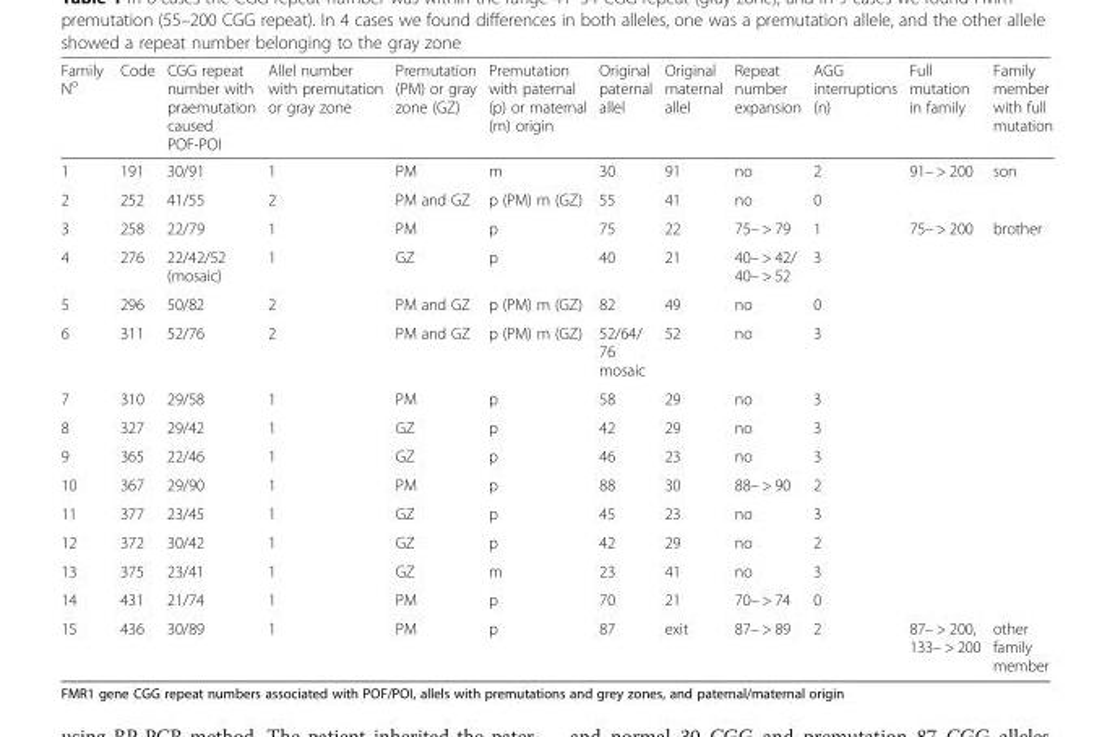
<table><thead><tr><td>Family N<sup>o</sup></td><td>Code</td><td>CGG repeat number with praemutation caused POF-POI</td><td>Allel number with premutation or gray zone</td><td>Premutation (PM) or gray zone (GZ)</td><td>Premutation with paternal (p) or maternal (m) origin</td><td>Original paternal allel</td><td>Original maternal allel</td><td>Repeat number expansion</td><td>AGG interruptions (n)</td><td>Full mutation in family</td><td>Family member with full mutation</td></tr></thead><tbody><tr><td>1</td><td>191</td><td>30/91</td><td>1</td><td>PM</td><td>m</td><td>30</td><td>91</td><td>no</td><td>2</td><td>91– &gt; 200</td><td>son</td></tr><tr><td>2</td><td>252</td><td>41/55</td><td>2</td><td>PM and GZ</td><td>p (PM) m (GZ)</td><td>55</td><td>41</td><td>no</td><td>0</td><td></td><td></td></tr><tr><td>3</td><td>258</td><td>22/79</td><td>1</td><td>PM</td><td>p</td><td>75</td><td>22</td><td>75– &gt; 79</td><td>1</td><td>75– &gt; 200</td><td>brother</td></tr><tr><td>4</td><td>276</td><td>22/42/52 (mosaic)</td><td>1</td><td>GZ</td><td>p</td><td>40</td><td>21</td><td>40– &gt; 42/ 40– &gt; 52</td><td>3</td><td></td><td></td></tr><tr><td>5</td><td>296</td><td>50/82</td><td>2</td><td>PM and GZ</td><td>p (PM) m (GZ)</td><td>82</td><td>49</td><td>no</td><td>0</td><td></td><td></td></tr><tr><td>6</td><td>311</td><td>52/76</td><td>2</td><td>PM and GZ</td><td>p (PM) m (GZ)</td><td>52/64/ 76 mosaic</td><td>52</td><td>no</td><td>3</td><td></td><td></td></tr><tr><td>7</td><td>310</td><td>29/58</td><td>1</td><td>PM</td><td>p</td><td>58</td><td>29</td><td>no</td><td>3</td><td></td><td></td></tr><tr><td>8</td><td>327</td><td>29/42</td><td>1</td><td>GZ</td><td>p</td><td>42</td><td>29</td><td>no</td><td>3</td><td></td><td></td></tr><tr><td>9</td><td>365</td><td>22/46</td><td>1</td><td>GZ</td><td>p</td><td>46</td><td>23</td><td>no</td><td>3</td><td></td><td></td></tr><tr><td>10</td><td>367</td><td>29/90</td><td>1</td><td>PM</td><td>p</td><td>88</td><td>30</td><td>88– &gt; 90</td><td>2</td><td></td><td></td></tr><tr><td>11</td><td>377</td><td>23/45</td><td>1</td><td>GZ</td><td>p</td><td>45</td><td>23</td><td>no</td><td>3</td><td></td><td></td></tr><tr><td>12</td><td>372</td><td>30/42</td><td>1</td><td>GZ</td><td>p</td><td>42</td><td>29</td><td>no</td><td>2</td><td></td><td></td></tr><tr><td>13</td><td>375</td><td>23/41</td><td>1</td><td>GZ</td><td>m</td><td>23</td><td>41</td><td>no</td><td>3</td><td></td><td></td></tr><tr><td>14</td><td>431</td><td>21/74</td><td>1</td><td>PM</td><td>p</td><td>70</td><td>21</td><td>70– &gt; 74</td><td>0</td><td></td><td></td></tr><tr><td>15</td><td>436</td><td>30/89</td><td>1</td><td>PM</td><td>p</td><td>87</td><td>exit</td><td>87– &gt; 89</td><td>2</td><td>87– &gt; 200, 133– &gt; 200</td><td>other family member</td></tr></tbody></table>